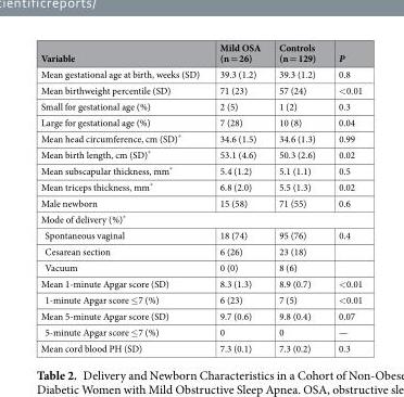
<table><thead><tr><td>Variable</td><td>Mild OSA (n = 26)</td><td>Controls (n = 129)</td><td>P</td></tr></thead><tbody><tr><td>Mean gestational age at birth, weeks (SD)</td><td>39.3 (1.2)</td><td>39.3 (1.2)</td><td>0.8</td></tr><tr><td>Mean birthweight percentile (SD)</td><td>71 (23)</td><td>57 (24)</td><td>&lt;0.01</td></tr><tr><td>Small for gestational age (%)</td><td>2 (5)</td><td>1 (2)</td><td>0.3</td></tr><tr><td>Large for gestational age (%)</td><td>7 (28)</td><td>10 (8)</td><td>0.04</td></tr><tr><td>Mean head circumference, cm (SD)*</td><td>34.6 (1.5)</td><td>34.6 (1.3)</td><td>0.99</td></tr><tr><td>Mean birth length, cm (SD)*</td><td>53.1 (4.6)</td><td>50.3 (2.6)</td><td>0.02</td></tr><tr><td>Mean subscapular thickness, mm*</td><td>5.4 (1.2)</td><td>5.1 (1.1)</td><td>0.5</td></tr><tr><td>Mean triceps thickness, mm*</td><td>6.8 (2.0)</td><td>5.5 (1.3)</td><td>0.02</td></tr><tr><td>Male newborn</td><td>15 (58)</td><td>71 (55)</td><td>0.6</td></tr><tr><td colspan="4">Mode of delivery (%)*</td></tr><tr><td>Spontaneous vaginal</td><td>18 (74)</td><td>95 (76)</td><td>0.4</td></tr><tr><td>Cesarean section</td><td>6 (26)</td><td>23 (18)</td><td></td></tr><tr><td>Vacuum</td><td>0 (0)</td><td>8 (6)</td><td></td></tr><tr><td>Mean 1-minute Apgar score (SD)</td><td>8.3 (1.3)</td><td>8.9 (0.7)</td><td>&lt;0.01</td></tr><tr><td>1-minute Apgar score ≤7 (%)</td><td>6 (23)</td><td>7 (5)</td><td>&lt;0.01</td></tr><tr><td>Mean 5-minute Apgar score (SD)</td><td>9.7 (0.6)</td><td>9.8 (0.4)</td><td>0.07</td></tr><tr><td>5-minute Apgar score ≤7 (%)</td><td>0</td><td>0</td><td>—</td></tr><tr><td>Mean cord blood PH (SD)</td><td>7.3 (0.1)</td><td>7.3 (0.2)</td><td>0.3</td></tr></tbody></table>